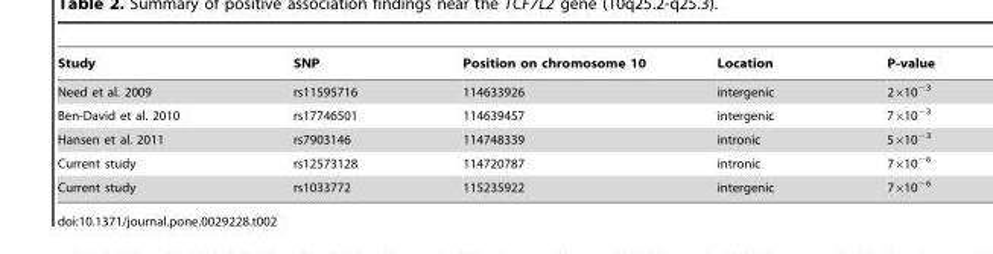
<table><thead><tr><td>Study</td><td>SNP</td><td>Position on chromosome 10</td><td>Location</td><td>P-value</td></tr></thead><tbody><tr><td>Need et al. 2009</td><td>rs11595716</td><td>114633926</td><td>intergenic</td><td>2×10<sup>−3</sup></td></tr><tr><td>Ben-David et al. 2010</td><td>rs17746501</td><td>114639457</td><td>intergenic</td><td>7×10<sup>−3</sup></td></tr><tr><td>Hansen et al. 2011</td><td>rs7903146</td><td>114748339</td><td>intronic</td><td>5×10<sup>−3</sup></td></tr><tr><td>Current study</td><td>rs12573128</td><td>114720787</td><td>intronic</td><td>7×10<sup>−6</sup></td></tr><tr><td>Current study</td><td>rs1033772</td><td>115235922</td><td>intergenic</td><td>7×10<sup>−6</sup></td></tr></tbody></table>